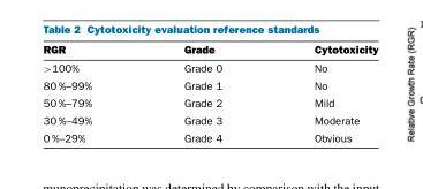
<table><thead><tr><td>RGR</td><td>Grade</td><td>Cytotoxicity</td></tr></thead><tbody><tr><td>&gt;100%</td><td>Grade 0</td><td>No</td></tr><tr><td>80 %–99%</td><td>Grade 1</td><td>No</td></tr><tr><td>50 %–79%</td><td>Grade 2</td><td>Mild</td></tr><tr><td>30 %–49%</td><td>Grade 3</td><td>Moderate</td></tr><tr><td>0 %–29%</td><td>Grade 4</td><td>Obvious</td></tr></tbody></table>